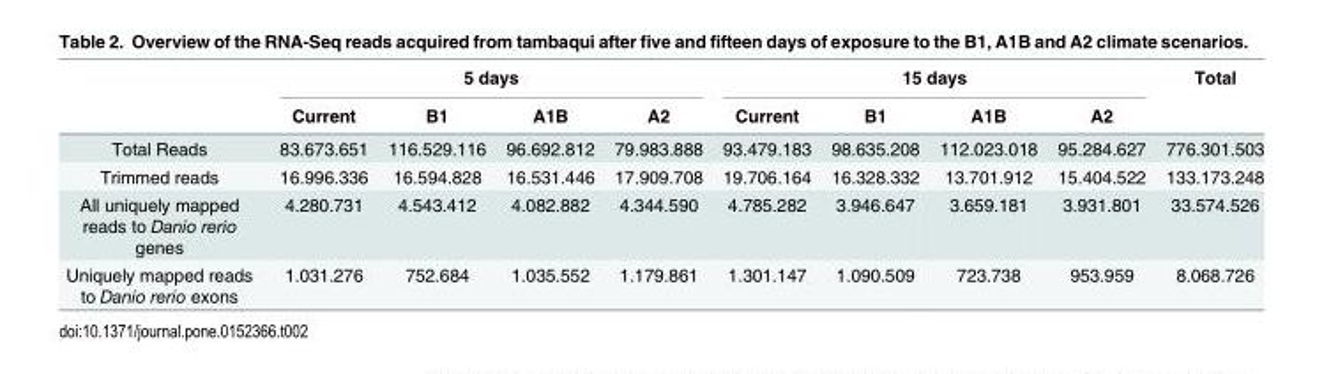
<table><thead><tr><td rowspan="2"></td><td colspan="4">5 days</td><td colspan="4">15 days</td><td rowspan="2">Total</td></tr><tr><td>Current</td><td>B1</td><td>A1B</td><td>A2</td><td>Current</td><td>B1</td><td>A1B</td><td>A2</td></tr></thead><tbody><tr><td>Total Reads</td><td>83.673.651</td><td>116.529.116</td><td>96.692.812</td><td>79.983.888</td><td>93.479.183</td><td>98.635.208</td><td>112.023.018</td><td>95.284.627</td><td>776.301.503</td></tr><tr><td>Trimmed reads</td><td>16.996.336</td><td>16.594.828</td><td>16.531.446</td><td>17.909.708</td><td>19.706.164</td><td>16.328.332</td><td>13.701.912</td><td>15.404.522</td><td>133.173.248</td></tr><tr><td>All uniquely mapped reads to Danio rerio genes</td><td>4.280.731</td><td>4.543.412</td><td>4.082.882</td><td>4.344.590</td><td>4.785.282</td><td>3.946.647</td><td>3.659.181</td><td>3.931.801</td><td>33.574.526</td></tr><tr><td>Uniquely mapped reads to Danio rerio exons</td><td>1.031.276</td><td>752.684</td><td>1.035.552</td><td>1.179.861</td><td>1.301.147</td><td>1.090.509</td><td>723.738</td><td>953.959</td><td>8.068.726</td></tr></tbody></table>